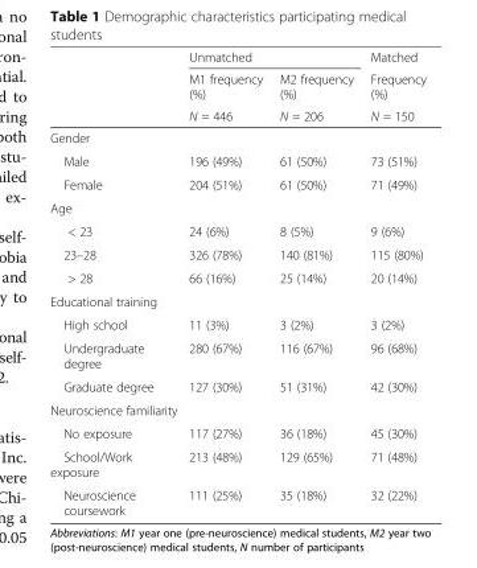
<table><thead><tr><td rowspan="3"></td><td colspan="2">Unmatched</td><td rowspan="3">Matched Frequency (%) N = 150</td></tr><tr><td rowspan="2">M1 frequency (%) N = 446</td><td rowspan="2">M2 frequency (%) N = 206</td></tr><tr></tr></thead><tbody><tr><td colspan="4">Gender</td></tr><tr><td>Male</td><td>196 (49%)</td><td>61 (50%)</td><td>73 (51%)</td></tr><tr><td>Female</td><td>204 (51%)</td><td>61 (50%)</td><td>71 (49%)</td></tr><tr><td colspan="4">Age</td></tr><tr><td>&lt; 23</td><td>24 (6%)</td><td>8 (5%)</td><td>9 (6%)</td></tr><tr><td>23–28</td><td>326 (78%)</td><td>140 (81%)</td><td>115 (80%)</td></tr><tr><td>&gt; 28</td><td>66 (16%)</td><td>25 (14%)</td><td>20 (14%)</td></tr><tr><td colspan="4">Educational training</td></tr><tr><td>High school</td><td>11 (3%)</td><td>3 (2%)</td><td>3 (2%)</td></tr><tr><td>Undergraduate degree</td><td>280 (67%)</td><td>116 (67%)</td><td>96 (68%)</td></tr><tr><td>Graduate degree</td><td>127 (30%)</td><td>51 (31%)</td><td>42 (30%)</td></tr><tr><td colspan="4">Neuroscience familiarity</td></tr><tr><td>No exposure</td><td>117 (27%)</td><td>36 (18%)</td><td>45 (30%)</td></tr><tr><td>School/Work exposure</td><td>213 (48%)</td><td>129 (65%)</td><td>71 (48%)</td></tr><tr><td>Neuroscience coursework</td><td>111 (25%)</td><td>35 (18%)</td><td>32 (22%)</td></tr></tbody></table>